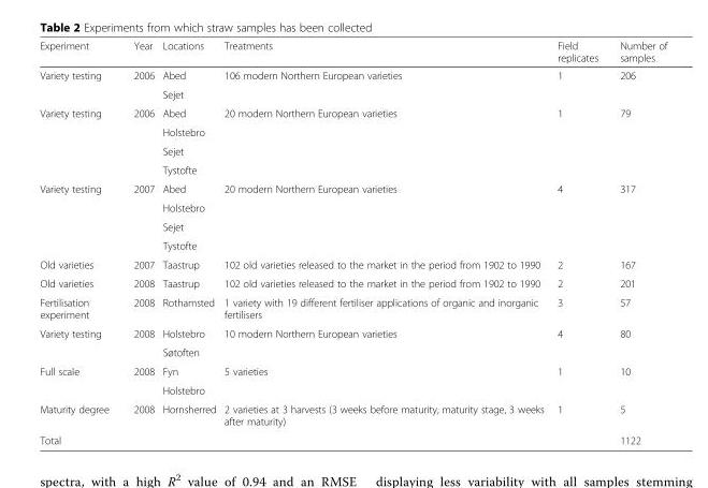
<table><thead><tr><td>Experiment</td><td>Year</td><td>Locations</td><td>Treatments</td><td>Field replicates</td><td>Number of samples</td></tr></thead><tbody><tr><td rowspan="2">Variety testing</td><td rowspan="2">2006</td><td>Abed</td><td rowspan="2">106 modern Northern European varieties</td><td rowspan="2">1</td><td rowspan="2">206</td></tr><tr><td>Sejet</td></tr><tr><td rowspan="4">Variety testing</td><td rowspan="4">2006</td><td>Abed</td><td rowspan="4">20 modern Northern European varieties</td><td rowspan="4">1</td><td rowspan="4">79</td></tr><tr><td>Holstebro</td></tr><tr><td>Sejet</td></tr><tr><td>Tystofte</td></tr><tr><td rowspan="4">Variety testing</td><td rowspan="4">2007</td><td>Abed</td><td rowspan="4">20 modern Northern European varieties</td><td rowspan="4">4</td><td rowspan="4">317</td></tr><tr><td>Holstebro</td></tr><tr><td>Sejet</td></tr><tr><td>Tystofte</td></tr><tr><td>Old varieties</td><td>2007</td><td>Taastrup</td><td>102 old varieties released to the market in the period from 1902 to 1990</td><td>2</td><td>167</td></tr><tr><td>Old varieties</td><td>2008</td><td>Taastrup</td><td>102 old varieties released to the market in the period from 1902 to 1990</td><td>2</td><td>201</td></tr><tr><td>Fertilisation experiment</td><td>2008</td><td>Rothamsted</td><td>1 variety with 19 different fertiliser applications of organic and inorganic fertilisers</td><td>3</td><td>57</td></tr><tr><td rowspan="2">Variety testing</td><td rowspan="2">2008</td><td>Holstebro</td><td rowspan="2">10 modern Northern European varieties</td><td rowspan="2">4</td><td rowspan="2">80</td></tr><tr><td>Søtoften</td></tr><tr><td rowspan="2">Full scale</td><td rowspan="2">2008</td><td>Fyn</td><td rowspan="2">5 varieties</td><td rowspan="2">1</td><td rowspan="2">10</td></tr><tr><td>Holstebro</td></tr><tr><td>Maturity degree</td><td>2008</td><td>Hornsherred</td><td>2 varieties at 3 harvests (3 weeks before maturity, maturity stage, 3 weeks after maturity)</td><td>1</td><td>5</td></tr><tr><td>Total</td><td></td><td></td><td></td><td></td><td>1122</td></tr></tbody></table>